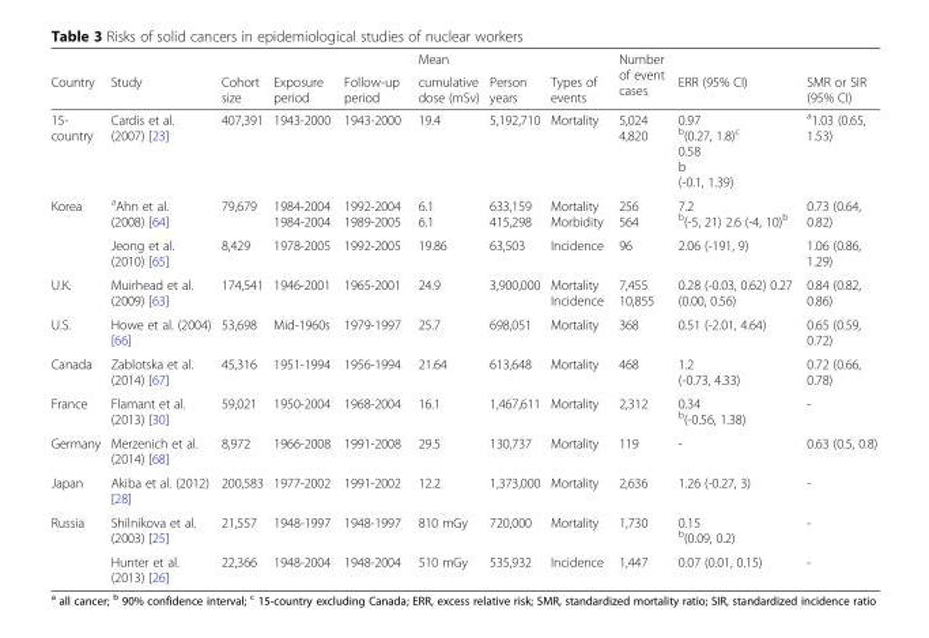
<table><thead><tr><td rowspan="2">Country</td><td rowspan="2">Study</td><td rowspan="2">Cohort size</td><td rowspan="2">Exposure period</td><td rowspan="2">Follow-up period</td><td rowspan="2">Mean cumulative dose (mSv)</td><td rowspan="2">Person years</td><td rowspan="2">Types of events</td><td rowspan="2">Number of event cases</td><td rowspan="2">ERR (95% CI)</td><td rowspan="2">SMR or SIR (95% CI)</td></tr><tr></tr></thead><tbody><tr><td>15- country</td><td>Cardis et al. (2007) [23]</td><td>407,391</td><td>1943-2000</td><td>1943-2000</td><td>19.4</td><td>5,192,710</td><td>Mortality</td><td>5,024 4,820</td><td>0.97 <sup>b</sup>(0.27, 1.8)<sup>c</sup> 0.58 b (-0.1, 1.39)</td><td><sup>a</sup>1.03 (0.65, 1.53)</td></tr><tr><td rowspan="2">Korea</td><td><sup>a</sup>Ahn et al. (2008) [64]</td><td>79,679</td><td>1984-2004 1984-2004</td><td>1992-2004 1989-2005</td><td>6.1 6.1</td><td>633,159 415,298</td><td>Mortality Morbidity</td><td>256 564</td><td>7.2 <sup>b</sup>(-5, 21) 2.6 (-4, 10)<sup>b</sup></td><td>0.73 (0.64, 0.82)</td></tr><tr><td>Jeong et al. (2010) [65]</td><td>8,429</td><td>1978-2005</td><td>1992-2005</td><td>19.86</td><td>63,503</td><td>Incidence</td><td>96</td><td>2.06 (-191, 9)</td><td>1.06 (0.86, 1.29)</td></tr><tr><td>U.K.</td><td>Muirhead et al. (2009) [63]</td><td>174,541</td><td>1946-2001</td><td>1965-2001</td><td>24.9</td><td>3,900,000</td><td>Mortality Incidence</td><td>7,455 10,855</td><td>0.28 (-0.03, 0.62) 0.27 (0.00, 0.56)</td><td>0.84 (0.82, 0.86)</td></tr><tr><td>U.S.</td><td>Howe et al. (2004) [66]</td><td>53,698</td><td>Mid-1960s</td><td>1979-1997</td><td>25.7</td><td>698,051</td><td>Mortality</td><td>368</td><td>0.51 (-2.01, 4.64)</td><td>0.65 (0.59, 0.72)</td></tr><tr><td>Canada</td><td>Zablotska et al. (2014) [67]</td><td>45,316</td><td>1951-1994</td><td>1956-1994</td><td>21.64</td><td>613,648</td><td>Mortality</td><td>468</td><td>1.2 (-0.73, 4.33)</td><td>0.72 (0.66, 0.78)</td></tr><tr><td>France</td><td>Flamant et al. (2013) [30]</td><td>59,021</td><td>1950-2004</td><td>1968-2004</td><td>16.1</td><td>1,467,611</td><td>Mortality</td><td>2,312</td><td>0.34 <sup>b</sup>(-0.56, 1.38)</td><td>-</td></tr><tr><td>Germany</td><td>Merzenich et al. (2014) [68]</td><td>8,972</td><td>1966-2008</td><td>1991-2008</td><td>29.5</td><td>130,737</td><td>Mortality</td><td>119</td><td>-</td><td>0.63 (0.5, 0.8)</td></tr><tr><td>Japan</td><td>Akiba et al. (2012) [28]</td><td>200,583</td><td>1977-2002</td><td>1991-2002</td><td>12.2</td><td>1,373,000</td><td>Mortality</td><td>2,636</td><td>1.26 (-0.27, 3)</td><td>-</td></tr><tr><td rowspan="2">Russia</td><td>Shilnikova et al. (2003) [25]</td><td>21,557</td><td>1948-1997</td><td>1948-1997</td><td>810 mGy</td><td>720,000</td><td>Mortality</td><td>1,730</td><td>0.15 <sup>b</sup>(0.09, 0.2)</td><td>-</td></tr><tr><td>Hunter et al. (2013) [26]</td><td>22,366</td><td>1948-2004</td><td>1948-2004</td><td>510 mGy</td><td>535,932</td><td>Incidence</td><td>1,447</td><td>0.07 (0.01, 0.15)</td><td>-</td></tr></tbody></table>